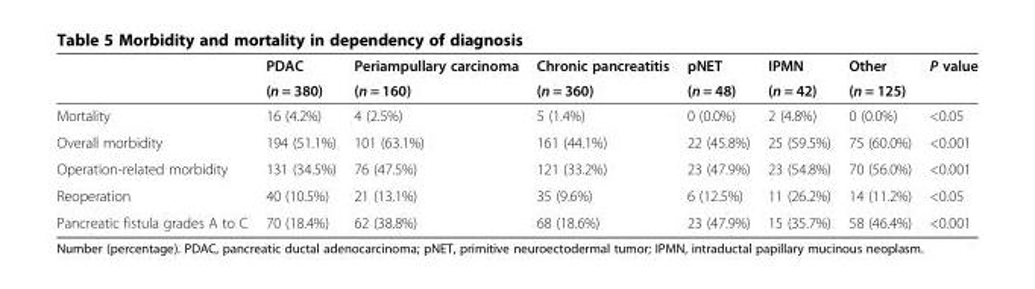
<table><thead><tr><td rowspan="2"></td><td rowspan="2">PDAC (n = 380)</td><td rowspan="2">Periampullary carcinoma (n = 160)</td><td rowspan="2">Chronic pancreatitis (n = 360)</td><td rowspan="2">pNET (n = 48)</td><td rowspan="2">IPMN (n = 42)</td><td rowspan="2">Other (n = 125)</td><td rowspan="2">P value</td></tr><tr></tr></thead><tbody><tr><td>Mortality</td><td>16 (4.2%)</td><td>4 (2.5%)</td><td>5 (1.4%)</td><td>0 (0.0%)</td><td>2 (4.8%)</td><td>0 (0.0%)</td><td>&lt;0.05</td></tr><tr><td>Overall morbidity</td><td>194 (51.1%)</td><td>101 (63.1%)</td><td>161 (44.1%)</td><td>22 (45.8%)</td><td>25 (59.5%)</td><td>75 (60.0%)</td><td>&lt;0.001</td></tr><tr><td>Operation-related morbidity</td><td>131 (34.5%)</td><td>76 (47.5%)</td><td>121 (33.2%)</td><td>23 (47.9%)</td><td>23 (54.8%)</td><td>70 (56.0%)</td><td>&lt;0.001</td></tr><tr><td>Reoperation</td><td>40 (10.5%)</td><td>21 (13.1%)</td><td>35 (9.6%)</td><td>6 (12.5%)</td><td>11 (26.2%)</td><td>14 (11.2%)</td><td>&lt;0.05</td></tr><tr><td>Pancreatic fistula grades A to C</td><td>70 (18.4%)</td><td>62 (38.8%)</td><td>68 (18.6%)</td><td>23 (47.9%)</td><td>15 (35.7%)</td><td>58 (46.4%)</td><td>&lt;0.001</td></tr></tbody></table>